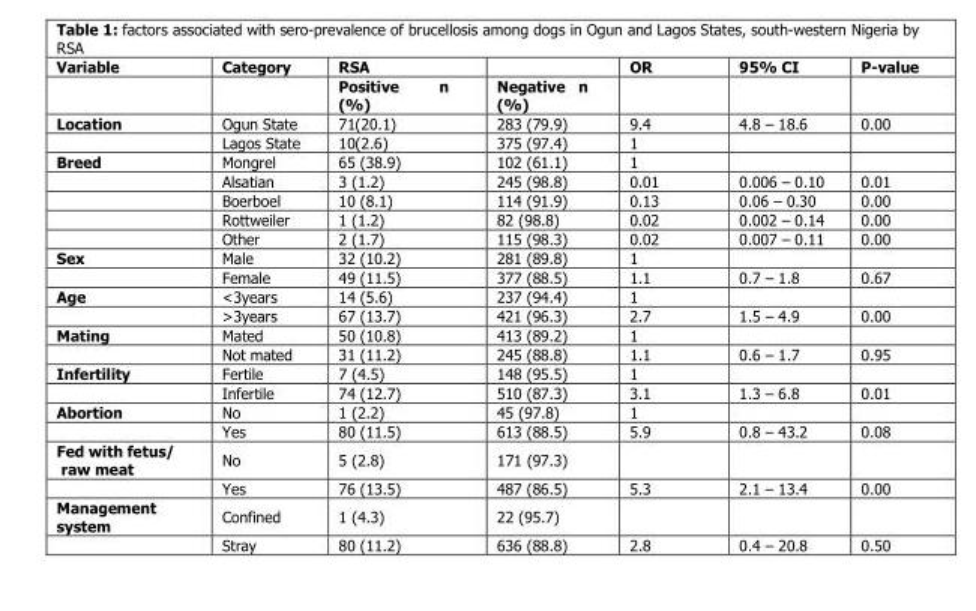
<table><thead><tr><td rowspan="2">Variable</td><td rowspan="2">Category</td><td rowspan="2">RSA Positive n (%)</td><td rowspan="2">Negative n (%)</td><td rowspan="2">OR</td><td rowspan="2">95% CI</td><td rowspan="2">P-value</td></tr><tr></tr></thead><tbody><tr><td rowspan="2">Location</td><td>Ogun State</td><td>71(20.1)</td><td>283 (79.9)</td><td>9.4</td><td>4.8 – 18.6</td><td>0.00</td></tr><tr><td>Lagos State</td><td>10(2.6)</td><td>375 (97.4)</td><td>1</td><td></td><td></td></tr><tr><td rowspan="5">Breed</td><td>Mongrel</td><td>65 (38.9)</td><td>102 (61.1)</td><td>1</td><td></td><td></td></tr><tr><td>Alsatian</td><td>3 (1.2)</td><td>245 (98.8)</td><td>0.01</td><td>0.006 – 0.10</td><td>0.01</td></tr><tr><td>Boerboel</td><td>10 (8.1)</td><td>114 (91.9)</td><td>0.13</td><td>0.06 – 0.30</td><td>0.00</td></tr><tr><td>Rottweiler</td><td>1 (1.2)</td><td>82 (98.8)</td><td>0.02</td><td>0.002 – 0.14</td><td>0.00</td></tr><tr><td>Other</td><td>2 (1.7)</td><td>115 (98.3)</td><td>0.02</td><td>0.007 – 0.11</td><td>0.00</td></tr><tr><td rowspan="2">Sex</td><td>Male</td><td>32 (10.2)</td><td>281 (89.8)</td><td>1</td><td></td><td></td></tr><tr><td>Female</td><td>49 (11.5)</td><td>377 (88.5)</td><td>1.1</td><td>0.7 – 1.8</td><td>0.67</td></tr><tr><td rowspan="2">Age</td><td>&lt;3years</td><td>14 (5.6)</td><td>237 (94.4)</td><td>1</td><td></td><td></td></tr><tr><td>&gt;3years</td><td>67 (13.7)</td><td>421 (96.3)</td><td>2.7</td><td>1.5 – 4.9</td><td>0.00</td></tr><tr><td rowspan="2">Mating</td><td>Mated</td><td>50 (10.8)</td><td>413 (89.2)</td><td>1</td><td></td><td></td></tr><tr><td>Not mated</td><td>31 (11.2)</td><td>245 (88.8)</td><td>1.1</td><td>0.6 – 1.7</td><td>0.95</td></tr><tr><td rowspan="2">Infertility</td><td>Fertile</td><td>7 (4.5)</td><td>148 (95.5)</td><td>1</td><td></td><td></td></tr><tr><td>Infertile</td><td>74 (12.7)</td><td>510 (87.3)</td><td>3.1</td><td>1.3 – 6.8</td><td>0.01</td></tr><tr><td rowspan="2">Abortion</td><td>No</td><td>1 (2.2)</td><td>45 (97.8)</td><td>1</td><td></td><td></td></tr><tr><td>Yes</td><td>80 (11.5)</td><td>613 (88.5)</td><td>5.9</td><td>0.8 – 43.2</td><td>0.08</td></tr><tr><td rowspan="2">Fed with fetus/ raw meat</td><td>No</td><td>5 (2.8)</td><td>171 (97.3)</td><td></td><td></td><td></td></tr><tr><td>Yes</td><td>76 (13.5)</td><td>487 (86.5)</td><td>5.3</td><td>2.1 – 13.4</td><td>0.00</td></tr><tr><td rowspan="2">Management system</td><td>Confined</td><td>1 (4.3)</td><td>22 (95.7)</td><td></td><td></td><td></td></tr><tr><td>Stray</td><td>80 (11.2)</td><td>636 (88.8)</td><td>2.8</td><td>0.4 – 20.8</td><td>0.50</td></tr></tbody></table>